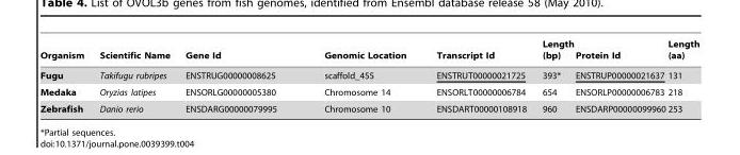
<table><thead><tr><td>Organism</td><td>Scientific Name</td><td>Gene Id</td><td>Genomic Location</td><td>Transcript Id</td><td>Length (bp)</td><td>Protein Id</td><td>Length (aa)</td></tr></thead><tbody><tr><td>Fugu</td><td>Takifugu rubripes</td><td>ENSTRUG00000008625</td><td>scaffold_455</td><td>ENSTRUT00000021725</td><td>393*</td><td>ENSTRUP00000021637</td><td>131</td></tr><tr><td>Medaka</td><td>Oryzias latipes</td><td>ENSORLG00000005380</td><td>Chromosome 14</td><td>ENSORLT00000006784</td><td>654</td><td>ENSORLP00000006783</td><td>218</td></tr><tr><td>Zebrafish</td><td>Danio rerio</td><td>ENSDARG00000079995</td><td>Chromosome 10</td><td>ENSDART00000108918</td><td>960</td><td>ENSDARP00000099960</td><td>253</td></tr></tbody></table>